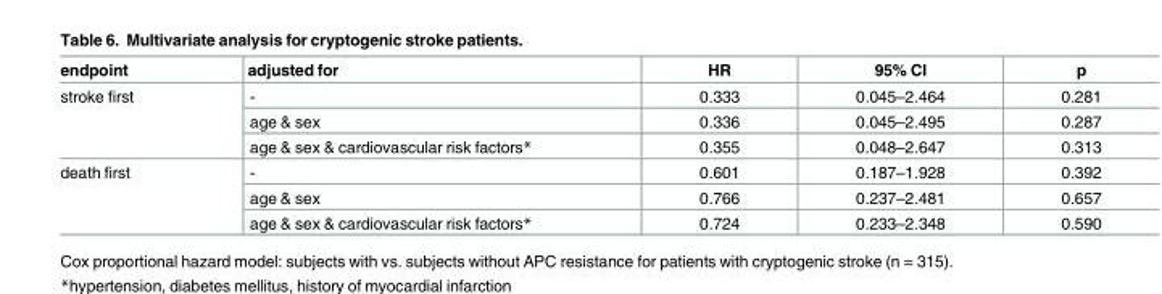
<table><thead><tr><td>endpoint</td><td>adjusted for</td><td>HR</td><td>95% CI</td><td>p</td></tr></thead><tbody><tr><td rowspan="3">stroke first</td><td>-</td><td>0.333</td><td>0.045–2.464</td><td>0.281</td></tr><tr><td>age &amp; sex</td><td>0.336</td><td>0.045–2.495</td><td>0.287</td></tr><tr><td>age &amp; sex &amp; cardiovascular risk factors*</td><td>0.355</td><td>0.048–2.647</td><td>0.313</td></tr><tr><td rowspan="3">death first</td><td>-</td><td>0.601</td><td>0.187–1.928</td><td>0.392</td></tr><tr><td>age &amp; sex</td><td>0.766</td><td>0.237–2.481</td><td>0.657</td></tr><tr><td>age &amp; sex &amp; cardiovascular risk factors*</td><td>0.724</td><td>0.233–2.348</td><td>0.590</td></tr></tbody></table>